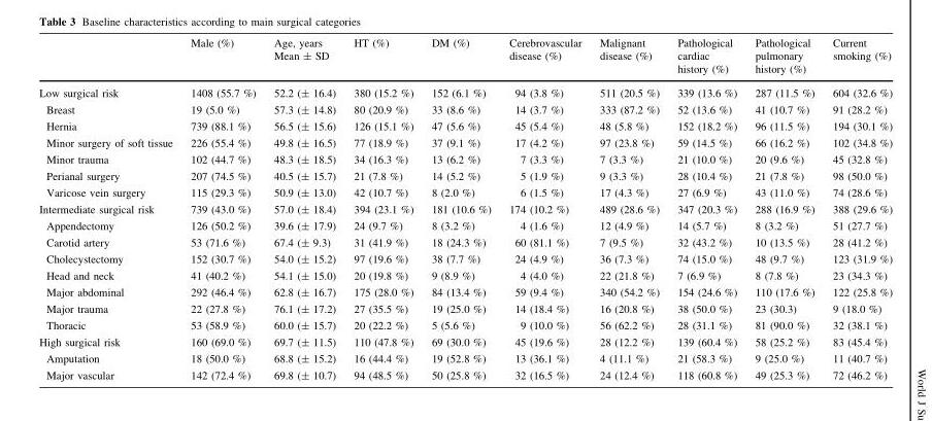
<table><thead><tr><td></td><td>Male (%)</td><td>Age, years Mean ± SD</td><td>HT (%)</td><td>DM (%)</td><td>Cerebrovascular disease (%)</td><td>Malignant disease (%)</td><td>Pathological cardiac history (%)</td><td>Pathological pulmonary history (%)</td><td>Current smoking (%)</td></tr></thead><tbody><tr><td>Low surgical risk</td><td>1408 (55.7 %)</td><td>52.2 (± 16.4)</td><td>380 (15.2 %)</td><td>152 (6.1 %)</td><td>94 (3.8 %)</td><td>511 (20.5 %)</td><td>339 (13.6 %)</td><td>287 (11.5 %)</td><td>604 (32.6 %)</td></tr><tr><td>Breast</td><td>19 (5.0 %)</td><td>57.3 (± 14.8)</td><td>80 (20.9 %)</td><td>33 (8.6 %)</td><td>14 (3.7 %)</td><td>333 (87.2 %)</td><td>52 (13.6 %)</td><td>41 (10.7 %)</td><td>91 (28.2 %)</td></tr><tr><td>Hernia</td><td>739 (88.1 %)</td><td>56.5 (± 15.6)</td><td>126 (15.1 %)</td><td>47 (5.6 %)</td><td>45 (5.4 %)</td><td>48 (5.8 %)</td><td>152 (18.2 %)</td><td>96 (11.5 %)</td><td>194 (30.1 %)</td></tr><tr><td>Minor surgery of soft tissue</td><td>226 (55.4 %)</td><td>49.8 (± 16.5)</td><td>77 (18.9 %)</td><td>37 (9.1 %)</td><td>17 (4.2 %)</td><td>97 (23.8 %)</td><td>59 (14.5 %)</td><td>66 (16.2 %)</td><td>102 (34.8 %)</td></tr><tr><td>Minor trauma</td><td>102 (44.7 %)</td><td>48.3 (± 18.5)</td><td>34 (16.3 %)</td><td>13 (6.2 %)</td><td>7 (3.3 %)</td><td>7 (3.3 %)</td><td>21 (10.0 %)</td><td>20 (9.6 %)</td><td>45 (32.8 %)</td></tr><tr><td>Perianal surgery</td><td>207 (74.5 %)</td><td>40.5 (± 15.7)</td><td>21 (7.8 %)</td><td>14 (5.2 %)</td><td>5 (1.9 %)</td><td>9 (3.3 %)</td><td>28 (10.4 %)</td><td>21 (7.8 %)</td><td>98 (50.0 %)</td></tr><tr><td>Varicose vein surgery</td><td>115 (29.3 %)</td><td>50.9 (± 13.0)</td><td>42 (10.7 %)</td><td>8 (2.0 %)</td><td>6 (1.5 %)</td><td>17 (4.3 %)</td><td>27 (6.9 %)</td><td>43 (11.0 %)</td><td>74 (28.6 %)</td></tr><tr><td>Intermediate surgical risk</td><td>739 (43.0 %)</td><td>57.0 (± 18.4)</td><td>394 (23.1 %)</td><td>181 (10.6 %)</td><td>174 (10.2 %)</td><td>489 (28.6 %)</td><td>347 (20.3 %)</td><td>288 (16.9 %)</td><td>388 (29.6 %)</td></tr><tr><td>Appendectomy</td><td>126 (50.2 %)</td><td>39.6 (± 17.9)</td><td>24 (9.7 %)</td><td>8 (3.2 %)</td><td>4 (1.6 %)</td><td>12 (4.9 %)</td><td>14 (5.7 %)</td><td>8 (3.2 %)</td><td>51 (27.7 %)</td></tr><tr><td>Carotid artery</td><td>53 (71.6 %)</td><td>67.4 (± 9.3)</td><td>31 (41.9 %)</td><td>18 (24.3 %)</td><td>60 (81.1 %)</td><td>7 (9.5 %)</td><td>32 (43.2 %)</td><td>10 (13.5 %)</td><td>28 (41.2 %)</td></tr><tr><td>Cholecystectomy</td><td>152 (30.7 %)</td><td>54.0 (± 15.2)</td><td>97 (19.6 %)</td><td>38 (7.7 %)</td><td>24 (4.9 %)</td><td>36 (7.3 %)</td><td>74 (15.0 %)</td><td>48 (9.7 %)</td><td>123 (31.9 %)</td></tr><tr><td>Head and neck</td><td>41 (40.2 %)</td><td>54.1 (± 15.0)</td><td>20 (19.8 %)</td><td>9 (8.9 %)</td><td>4 (4.0 %)</td><td>22 (21.8 %)</td><td>7 (6.9 %)</td><td>8 (7.8 %)</td><td>23 (34.3 %)</td></tr><tr><td>Major abdominal</td><td>292 (46.4 %)</td><td>62.8 (± 16.7)</td><td>175 (28.0 %)</td><td>84 (13.4 %)</td><td>59 (9.4 %)</td><td>340 (54.2 %)</td><td>154 (24.6 %)</td><td>110 (17.6 %)</td><td>122 (25.8 %)</td></tr><tr><td>Major trauma</td><td>22 (27.8 %)</td><td>76.1 (± 17.2)</td><td>27 (35.5 %)</td><td>19 (25.0 %)</td><td>14 (18.4 %)</td><td>16 (20.8 %)</td><td>38 (50.0 %)</td><td>23 (30.3)</td><td>9 (18.0 %)</td></tr><tr><td>Thoracic</td><td>53 (58.9 %)</td><td>60.0 (± 15.7)</td><td>20 (22.2 %)</td><td>5 (5.6 %)</td><td>9 (10.0 %)</td><td>56 (62.2 %)</td><td>28 (31.1 %)</td><td>81 (90.0 %)</td><td>32 (38.1 %)</td></tr><tr><td>High surgical risk</td><td>160 (69.0 %)</td><td>69.7 (± 11.5)</td><td>110 (47.8 %)</td><td>69 (30.0 %)</td><td>45 (19.6 %)</td><td>28 (12.2 %)</td><td>139 (60.4 %)</td><td>58 (25.2 %)</td><td>83 (45.4 %)</td></tr><tr><td>Amputation</td><td>18 (50.0 %)</td><td>68.8 (± 15.2)</td><td>16 (44.4 %)</td><td>19 (52.8 %)</td><td>13 (36.1 %)</td><td>4 (11.1 %)</td><td>21 (58.3 %)</td><td>9 (25.0 %)</td><td>11 (40.7 %)</td></tr><tr><td>Major vascular</td><td>142 (72.4 %)</td><td>69.8 (± 10.7)</td><td>94 (48.5 %)</td><td>50 (25.8 %)</td><td>32 (16.5 %)</td><td>24 (12.4 %)</td><td>118 (60.8 %)</td><td>49 (25.3 %)</td><td>72 (46.2 %)</td></tr></tbody></table>